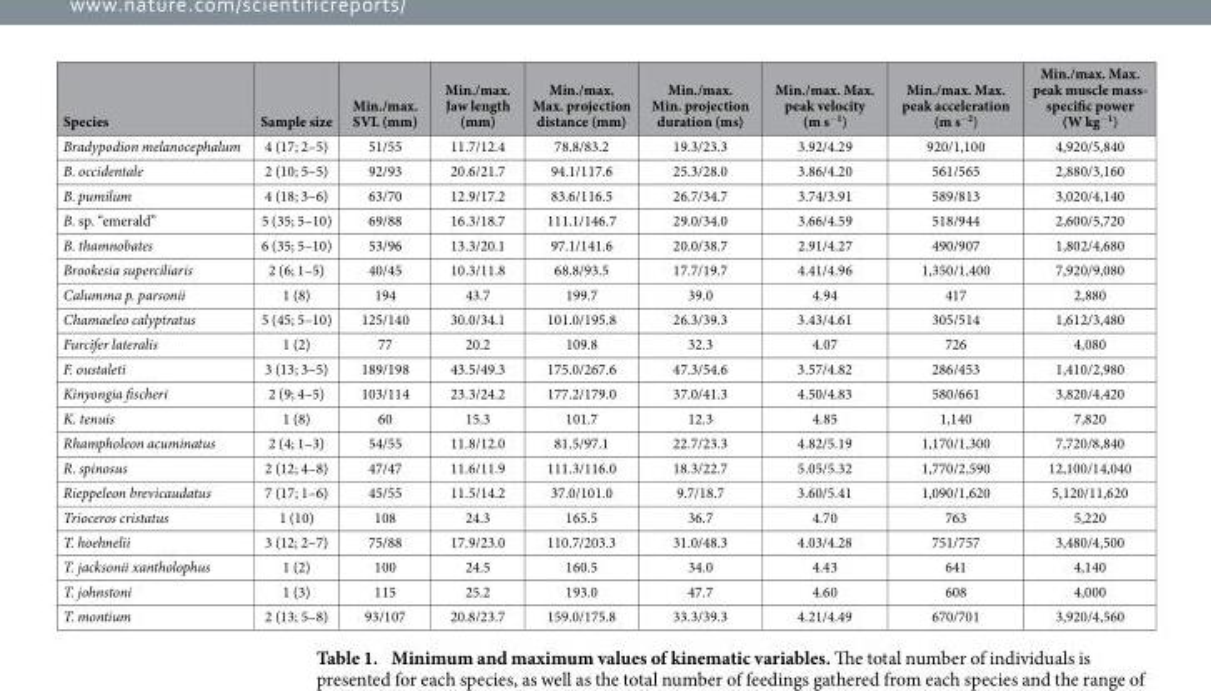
<table><thead><tr><td>Species</td><td>Sample size</td><td>Min./max. SVL (mm)</td><td>Min./max. Jaw length (mm)</td><td>Min./max. Max. projection distance (mm)</td><td>Min./max. Min. projection duration (ms)</td><td>Min./max. Max. peak velocity (m s<sup>−1</sup>)</td><td>Min./max. Max. peak acceleration (m s<sup>−2</sup>)</td><td>Min./max. Max. peak muscle mass- specific power (W kg<sup>−1</sup>)</td></tr></thead><tbody><tr><td>Bradypodion melanocephalum</td><td>4 (17; 2–5)</td><td>51/55</td><td>11.7/12.4</td><td>78.8/83.2</td><td>19.3/23.3</td><td>3.92/4.29</td><td>920/1,100</td><td>4,920/5,840</td></tr><tr><td>B. occidentale</td><td>2 (10; 5–5)</td><td>92/93</td><td>20.6/21.7</td><td>94.1/117.6</td><td>25.3/28.0</td><td>3.86/4.20</td><td>561/565</td><td>2,880/3,160</td></tr><tr><td>B. pumilum</td><td>4 (18; 3–6)</td><td>63/70</td><td>12.9/17.2</td><td>83.6/116.5</td><td>26.7/34.7</td><td>3.74/3.91</td><td>589/813</td><td>3,020/4,140</td></tr><tr><td>B. sp. “emerald”</td><td>5 (35; 5–10)</td><td>69/88</td><td>16.3/18.7</td><td>111.1/146.7</td><td>29.0/34.0</td><td>3.66/4.59</td><td>518/944</td><td>2,600/5,720</td></tr><tr><td>B. thamnobates</td><td>6 (35; 5–10)</td><td>53/96</td><td>13.3/20.1</td><td>97.1/141.6</td><td>20.0/38.7</td><td>2.91/4.27</td><td>490/907</td><td>1,802/4,680</td></tr><tr><td>Brookesia superciliaris</td><td>2 (6; 1–5)</td><td>40/45</td><td>10.3/11.8</td><td>68.8/93.5</td><td>17.7/19.7</td><td>4.41/4.96</td><td>1,350/1,400</td><td>7,920/9,080</td></tr><tr><td>Calumma p. parsonii</td><td>1 (8)</td><td>194</td><td>43.7</td><td>199.7</td><td>39.0</td><td>4.94</td><td>417</td><td>2,880</td></tr><tr><td>Chamaeleo calyptratus</td><td>5 (45; 5–10)</td><td>125/140</td><td>30.0/34.1</td><td>101.0/195.8</td><td>26.3/39.3</td><td>3.43/4.61</td><td>305/514</td><td>1,612/3,480</td></tr><tr><td>Furcifer lateralis</td><td>1 (2)</td><td>77</td><td>20.2</td><td>109.8</td><td>32.3</td><td>4.07</td><td>726</td><td>4,080</td></tr><tr><td>F. oustaleti</td><td>3 (13; 3–5)</td><td>189/198</td><td>43.5/49.3</td><td>175.0/267.6</td><td>47.3/54.6</td><td>3.57/4.82</td><td>286/453</td><td>1,410/2,980</td></tr><tr><td>Kinyongia fischeri</td><td>2 (9; 4–5)</td><td>103/114</td><td>23.3/24.2</td><td>177.2/179.0</td><td>37.0/41.3</td><td>4.50/4.83</td><td>580/661</td><td>3,820/4,420</td></tr><tr><td>K. tenuis</td><td>1 (8)</td><td>60</td><td>15.3</td><td>101.7</td><td>12.3</td><td>4.85</td><td>1,140</td><td>7,820</td></tr><tr><td>Rhampholeon acuminatus</td><td>2 (4; 1–3)</td><td>54/55</td><td>11.8/12.0</td><td>81.5/97.1</td><td>22.7/23.3</td><td>4.82/5.19</td><td>1,170/1,300</td><td>7,720/8,840</td></tr><tr><td>R. spinosus</td><td>2 (12; 4–8)</td><td>47/47</td><td>11.6/11.9</td><td>111.3/116.0</td><td>18.3/22.7</td><td>5.05/5.32</td><td>1,770/2,590</td><td>12,100/14,040</td></tr><tr><td>Rieppeleon brevicaudatus</td><td>7 (17; 1–6)</td><td>45/55</td><td>11.5/14.2</td><td>37.0/101.0</td><td>9.7/18.7</td><td>3.60/5.41</td><td>1,090/1,620</td><td>5,120/11,620</td></tr><tr><td>Trioceros cristatus</td><td>1 (10)</td><td>108</td><td>24.3</td><td>165.5</td><td>36.7</td><td>4.70</td><td>763</td><td>5,220</td></tr><tr><td>T. hoehnelii</td><td>3 (12; 2–7)</td><td>75/88</td><td>17.9/23.0</td><td>110.7/203.3</td><td>31.0/48.3</td><td>4.03/4.28</td><td>751/757</td><td>3,480/4,500</td></tr><tr><td>T. jacksonii xantholophus</td><td>1 (2)</td><td>100</td><td>24.5</td><td>160.5</td><td>34.0</td><td>4.43</td><td>641</td><td>4,140</td></tr><tr><td>T. johnstoni</td><td>1 (3)</td><td>115</td><td>25.2</td><td>193.0</td><td>47.7</td><td>4.60</td><td>608</td><td>4,000</td></tr><tr><td>T. montium</td><td>2 (13; 5–8)</td><td>93/107</td><td>20.8/23.7</td><td>159.0/175.8</td><td>33.3/39.3</td><td>4.21/4.49</td><td>670/701</td><td>3,920/4,560</td></tr></tbody></table>